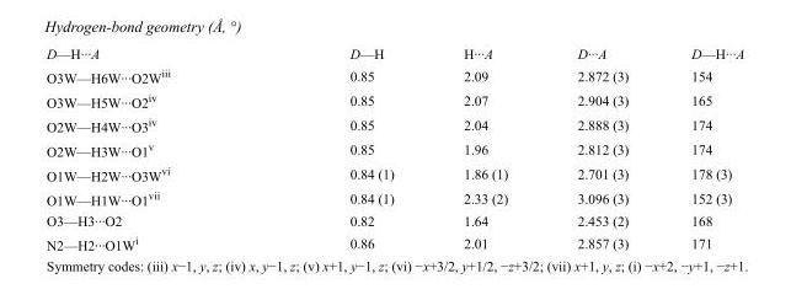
<table><tbody><tr><td>D—H···A</td><td>D—H</td><td>H···A</td><td>D···A</td><td>D—H···A</td></tr><tr><td>O3W—H6W···O2W<sup>iii</sup></td><td>0.85</td><td>2.09</td><td>2.872 (3)</td><td>154</td></tr><tr><td>O3W—H5W···O2<sup>iv</sup></td><td>0.85</td><td>2.07</td><td>2.904 (3)</td><td>165</td></tr><tr><td>O2W—H4W···O3<sup>iv</sup></td><td>0.85</td><td>2.04</td><td>2.888 (3)</td><td>174</td></tr><tr><td>O2W—H3W···O1<sup>v</sup></td><td>0.85</td><td>1.96</td><td>2.812 (3)</td><td>174</td></tr><tr><td>O1W—H2W···O3W<sup>vi</sup></td><td>0.84 (1)</td><td>1.86 (1)</td><td>2.701 (3)</td><td>178 (3)</td></tr><tr><td>O1W—H1W···O1<sup>vii</sup></td><td>0.84 (1)</td><td>2.33 (2)</td><td>3.096 (3)</td><td>152 (3)</td></tr><tr><td>O3—H3···O2</td><td>0.82</td><td>1.64</td><td>2.453 (2)</td><td>168</td></tr><tr><td>N2—H2···O1W<sup>i</sup></td><td>0.86</td><td>2.01</td><td>2.857 (3)</td><td>171</td></tr></tbody></table>